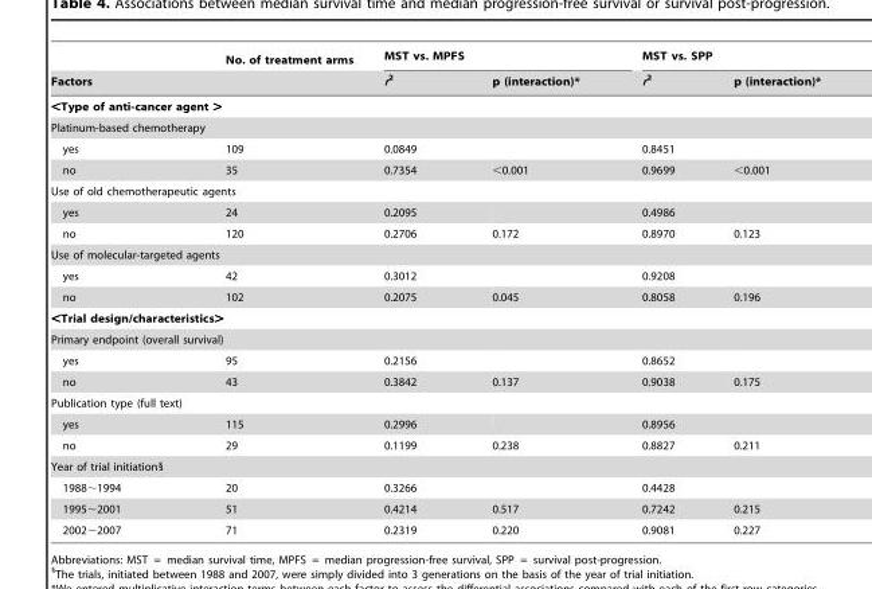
<table><thead><tr><td rowspan="2">Factors</td><td rowspan="2">No. of treatment arms</td><td colspan="2">MST vs. MPFS</td><td colspan="2">MST vs. SPP</td></tr><tr><td>r<sup>2</sup></td><td>p (interaction)*</td><td>r<sup>2</sup></td><td>p (interaction)*</td></tr></thead><tbody><tr><td colspan="6">&lt;Type of anti-cancer agent &gt;</td></tr><tr><td colspan="6">Platinum-based chemotherapy</td></tr><tr><td>yes</td><td>109</td><td>0.0849</td><td></td><td>0.8451</td><td></td></tr><tr><td>no</td><td>35</td><td>0.7354</td><td>&lt;0.001</td><td>0.9699</td><td>&lt;0.001</td></tr><tr><td colspan="6">Use of old chemotherapeutic agents</td></tr><tr><td>yes</td><td>24</td><td>0.2095</td><td></td><td>0.4986</td><td></td></tr><tr><td>no</td><td>120</td><td>0.2706</td><td>0.172</td><td>0.8970</td><td>0.123</td></tr><tr><td colspan="6">Use of molecular-targeted agents</td></tr><tr><td>yes</td><td>42</td><td>0.3012</td><td></td><td>0.9208</td><td></td></tr><tr><td>no</td><td>102</td><td>0.2075</td><td>0.045</td><td>0.8058</td><td>0.196</td></tr><tr><td colspan="6">&lt;Trial design/characteristics&gt;</td></tr><tr><td colspan="6">Primary endpoint (overall survival)</td></tr><tr><td>yes</td><td>95</td><td>0.2156</td><td></td><td>0.8652</td><td></td></tr><tr><td>no</td><td>43</td><td>0.3842</td><td>0.137</td><td>0.9038</td><td>0.175</td></tr><tr><td colspan="6">Publication type (full text)</td></tr><tr><td>yes</td><td>115</td><td>0.2996</td><td></td><td>0.8956</td><td></td></tr><tr><td>no</td><td>29</td><td>0.1199</td><td>0.238</td><td>0.8827</td><td>0.211</td></tr><tr><td colspan="6">Year of trial initiation§</td></tr><tr><td>1988∼1994</td><td>20</td><td>0.3266</td><td></td><td>0.4428</td><td></td></tr><tr><td>1995∼2001</td><td>51</td><td>0.4214</td><td>0.517</td><td>0.7242</td><td>0.215</td></tr><tr><td>2002∼2007</td><td>71</td><td>0.2319</td><td>0.220</td><td>0.9081</td><td>0.227</td></tr></tbody></table>